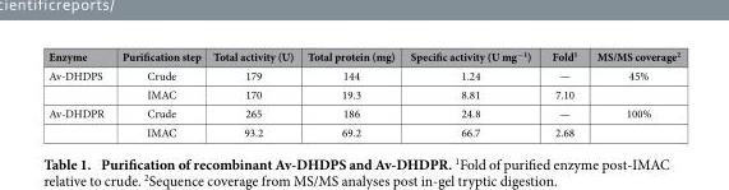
<table><thead><tr><td>Enzyme</td><td>Purification step</td><td>Total activity (U)</td><td>Total protein (mg)</td><td>Specific activity (U mg<sup>−1</sup>)</td><td>Fold<sup>1</sup></td><td>MS/MS coverage<sup>2</sup></td></tr></thead><tbody><tr><td rowspan="2">Av-DHDPS</td><td>Crude</td><td>179</td><td>144</td><td>1.24</td><td>—</td><td>45%</td></tr><tr><td>IMAC</td><td>170</td><td>19.3</td><td>8.81</td><td>7.10</td><td></td></tr><tr><td rowspan="2">Av-DHDPR</td><td>Crude</td><td>265</td><td>186</td><td>24.8</td><td>—</td><td>100%</td></tr><tr><td>IMAC</td><td>93.2</td><td>69.2</td><td>66.7</td><td>2.68</td><td></td></tr></tbody></table>